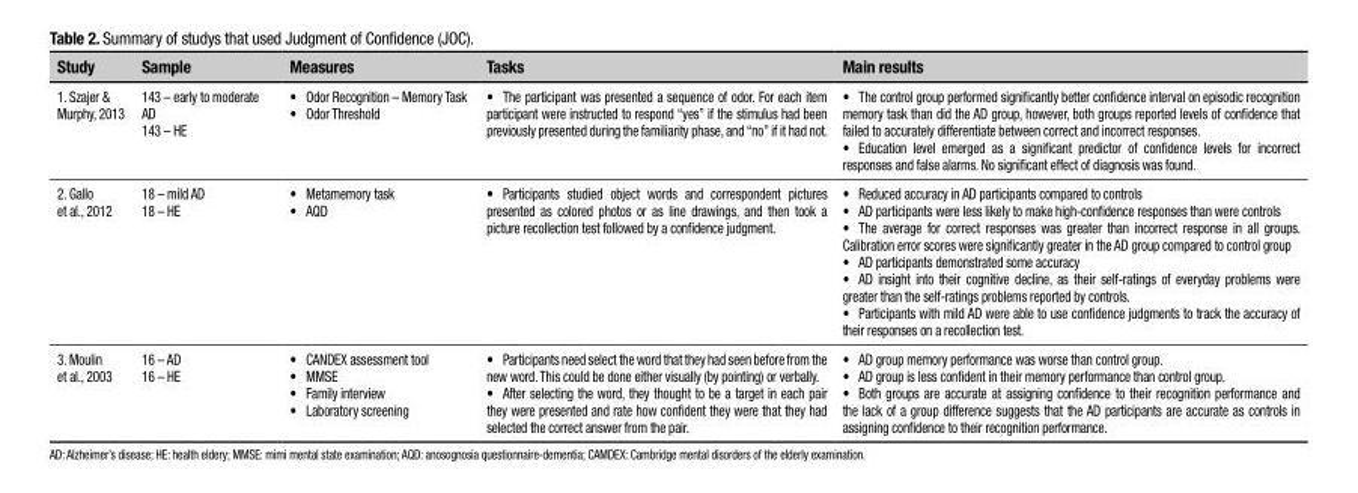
<table><thead><tr><td>Study</td><td>Sample</td><td>Measures</td><td>Tasks</td><td>Main results</td></tr></thead><tbody><tr><td>1. Szajer &amp; Murphy, 2013</td><td>143 – early to moderate AD 143 – HE</td><td>• Odor Recognition – Memory Task • Odor Threshold</td><td>• The participant was presented a sequence of odor. For each item participant were instructed to respond “yes” if the stimulus had been previously presented during the familiarity phase, and “no” if it had not.</td><td>• The control group performed significantly better confidence interval on episodic recognition memory task than did the AD group, however, both groups reported levels of confidence that failed to accurately differentiate between correct and incorrect responses. • Education level emerged as a significant predictor of confidence levels for incorrect responses and false alarms. No significant effect of diagnosis was found.</td></tr><tr><td>2. Gallo et al., 2012</td><td>18 – mild AD 18 – HE</td><td>• Metamemory task • AQD</td><td>• Participants studied object words and correspondent pictures presented as colored photos or as line drawings, and then took a picture recollection test followed by a confidence judgment.</td><td>• Reduced accuracy in AD participants compared to controls • AD participants were less likely to make high-confidence responses than were controls • The average for correct responses was greater than incorrect response in all groups. Calibration error scores were significantly greater in the AD group compared to control group • AD participants demonstrated some accuracy • AD insight into their cognitive decline, as their self-ratings of everyday problems were greater than the self-ratings problems reported by controls. • Participants with mild AD were able to use confidence judgments to track the accuracy of their responses on a recollection test.</td></tr><tr><td>3. Moulin et al., 2003</td><td>16 – AD 16 – HE</td><td>• CANDEX assessment tool • MMSE • Family interview • Laboratory screening</td><td>• Participants need select the word that they had seen before from the new word. This could be done either visually (by pointing) or verbally. • After selecting the word, they thought to be a target in each pair they were presented and rate how confident they were that they had selected the correct answer from the pair.</td><td>• AD group memory performance was worse than control group. • AD group is less confident in their memory performance than control group. • Both groups are accurate at assigning confidence to their recognition performance and the lack of a group difference suggests that the AD participants are accurate as controls in assigning confidence to their recognition performance.</td></tr></tbody></table>